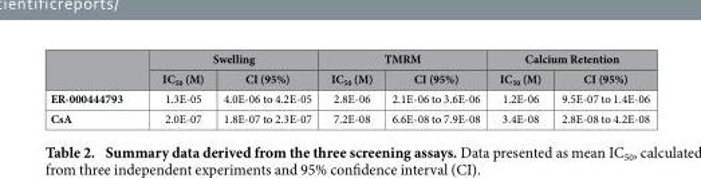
<table><thead><tr><td rowspan="2"></td><td colspan="2">Swelling</td><td colspan="2">TMRM</td><td colspan="2">Calcium Retention</td></tr><tr><td>IC<sub>50</sub> (M)</td><td>CI (95%)</td><td>IC<sub>50</sub> (M)</td><td>CI (95%)</td><td>IC<sub>50</sub> (M)</td><td>CI (95%)</td></tr></thead><tbody><tr><td>ER-000444793</td><td>1.3E-05</td><td>4.0E-06 to 4.2E-05</td><td>2.8E-06</td><td>2.1E-06 to 3.6E-06</td><td>1.2E-06</td><td>9.5E-07 to 1.4E-06</td></tr><tr><td>CsA</td><td>2.0E-07</td><td>1.8E-07 to 2.3E-07</td><td>7.2E-08</td><td>6.6E-08 to 7.9E-08</td><td>3.4E-08</td><td>2.8E-08 to 4.2E-08</td></tr></tbody></table>